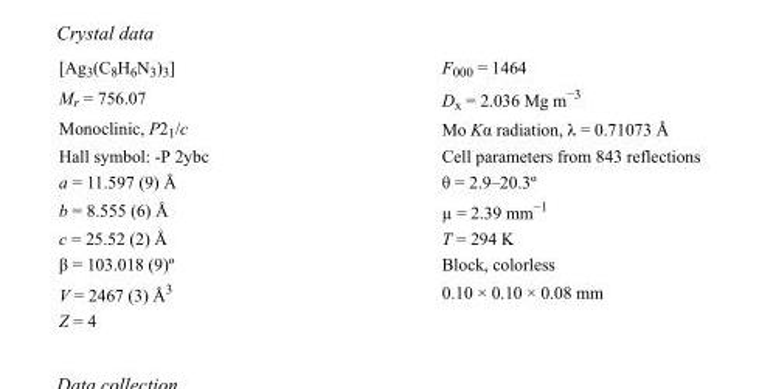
<table><tbody><tr><td>[Ag<sub>3</sub>(C<sub>8</sub>H<sub>6</sub>N<sub>3</sub>)<sub>3</sub>]</td><td>F000 = 1464</td></tr><tr><td>M<sub>r</sub> = 756.07</td><td>D<sub>x</sub> = 2.036 Mg m<sup>−3</sup></td></tr><tr><td>Monoclinic, P2<sub>1</sub>/c</td><td>Mo Kα radiation, λ = 0.71073 Å</td></tr><tr><td>Hall symbol: -P 2ybc</td><td>Cell parameters from 843 reflections</td></tr><tr><td>a = 11.597 (9) Å</td><td>θ = 2.9–20.3º</td></tr><tr><td>b = 8.555 (6) Å</td><td>µ = 2.39 mm<sup>−1</sup></td></tr><tr><td>c = 25.52 (2) Å</td><td>T = 294 K</td></tr><tr><td>β = 103.018 (9)º</td><td>Block, colorless</td></tr><tr><td>V = 2467 (3) Å<sup>3</sup></td><td>0.10 × 0.10 × 0.08 mm</td></tr><tr><td>Z = 4</td><td></td></tr></tbody></table>